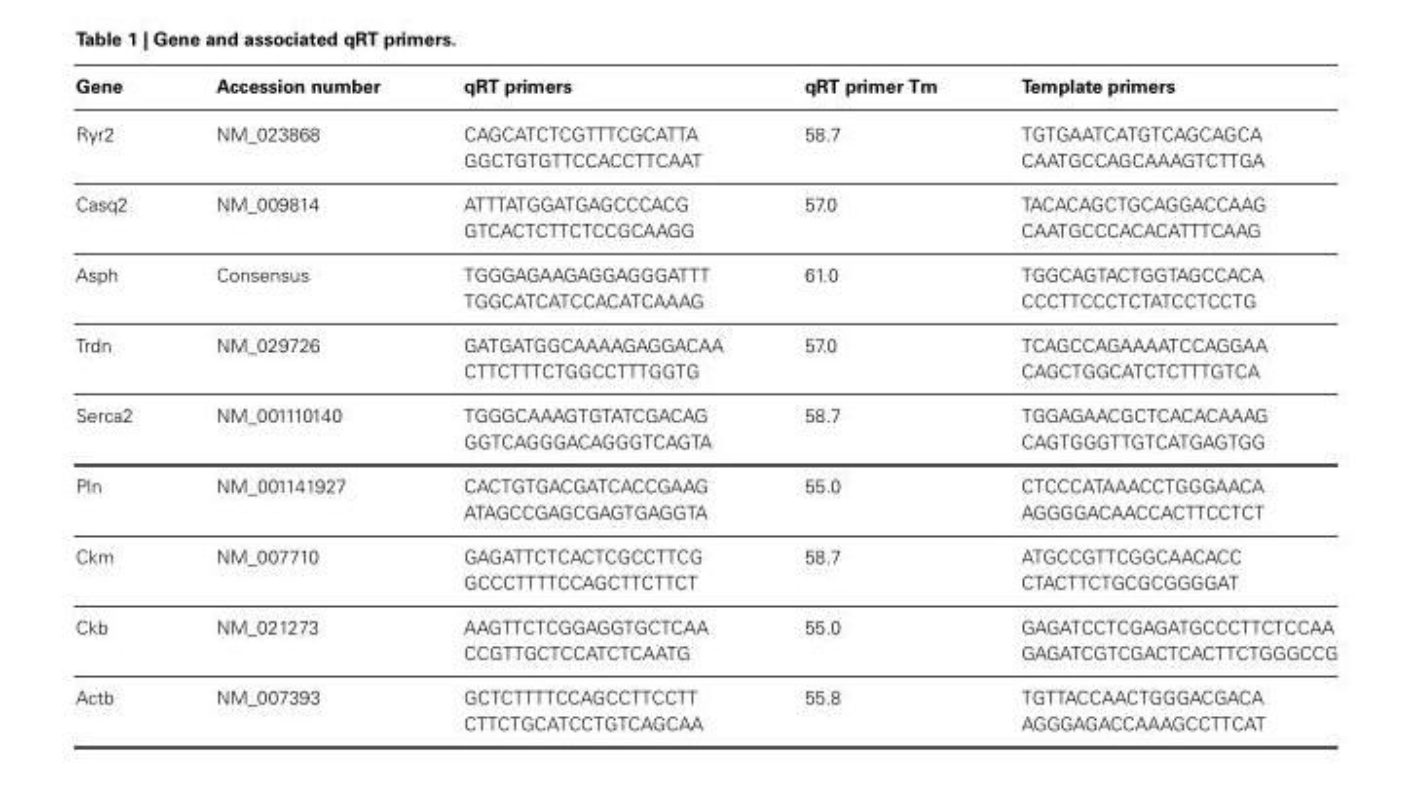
<table><thead><tr><td>Gene</td><td>Accession number</td><td>qRT primers</td><td>qRT primer Tm</td><td>Template primers</td></tr></thead><tbody><tr><td rowspan="2">Ryr2</td><td>NM_023868</td><td>CAGCATCTCGTTTCGCATTA</td><td>58.7</td><td>TGTGAATCATGTCAGCAGCA</td></tr><tr><td></td><td>GGCTGTGTTCCACCTTCAAT</td><td></td><td>CAATGCCAGCAAAGTCTTGA</td></tr><tr><td rowspan="2">Casq2</td><td>NM_009814</td><td>ATTTATGGATGAGCCCACG</td><td>57.0</td><td>TACACAGCTGCAGGACCAAG</td></tr><tr><td></td><td>GTCACTCTTCTCCGCAAGG</td><td></td><td>CAATGCCCACACATTTCAAG</td></tr><tr><td rowspan="2">Asph</td><td>Consensus</td><td>TGGGAGAAGAGGAGGGATTT</td><td>61.0</td><td>TGGCAGTACTGGTAGCCACA</td></tr><tr><td></td><td>TGGCATCATCCACATCAAAG</td><td></td><td>CCCTTCCCTCTATCCTCCTG</td></tr><tr><td rowspan="2">Trdn</td><td>NM_029726</td><td>GATGATGGCAAAAGAGGACAA</td><td>57.0</td><td>TCAGCCAGAAAATCCAGGAA</td></tr><tr><td></td><td>CTTCTTTCTGGCCTTTGGTG</td><td></td><td>CAGCTGGCATCTCTTTGTCA</td></tr><tr><td rowspan="2">Serca2</td><td>NM_001110140</td><td>TGGGCAAAGTGTATCGACAG</td><td>58.7</td><td>TGGAGAACGCTCACACAAAG</td></tr><tr><td></td><td>GGTCAGGGACAGGGTCAGTA</td><td></td><td>CAGTGGGTTGTCATGAGTGG</td></tr><tr><td rowspan="2">Pln</td><td>NM_001141927</td><td>CACTGTGACGATCACCGAAG</td><td>55.0</td><td>CTCCCATAAACCTGGGAACA</td></tr><tr><td></td><td>ATAGCCGAGCGAGTGAGGTA</td><td></td><td>AGGGGACAACCACTTCCTCT</td></tr><tr><td rowspan="2">Ckm</td><td>NM_007710</td><td>GAGATTCTCACTCGCCTTCG</td><td>58.7</td><td>ATGCCGTTCGGCAACACC</td></tr><tr><td></td><td>GCCCTTTTCCAGCTTCTTCT</td><td></td><td>CTACTTCTGCGCGGGGAT</td></tr><tr><td rowspan="2">Ckb</td><td>NM_021273</td><td>AAGTTCTCGGAGGTGCTCAA</td><td>55.0</td><td>GAGATCCTCGAGATGCCCTTCTCCAA</td></tr><tr><td></td><td>CCGTTGCTCCATCTCAATG</td><td></td><td>GAGATCGTCGACTCACTTCTGGGCCG</td></tr><tr><td rowspan="2">Actb</td><td>NM_007393</td><td>GCTCTTTTCCAGCCTTCCTT</td><td>55.8</td><td>TGTTACCAACTGGGACGACA</td></tr><tr><td></td><td>CTTCTGCATCCTGTCAGCAA</td><td></td><td>AGGGAGACCAAAGCCTTCAT</td></tr></tbody></table>